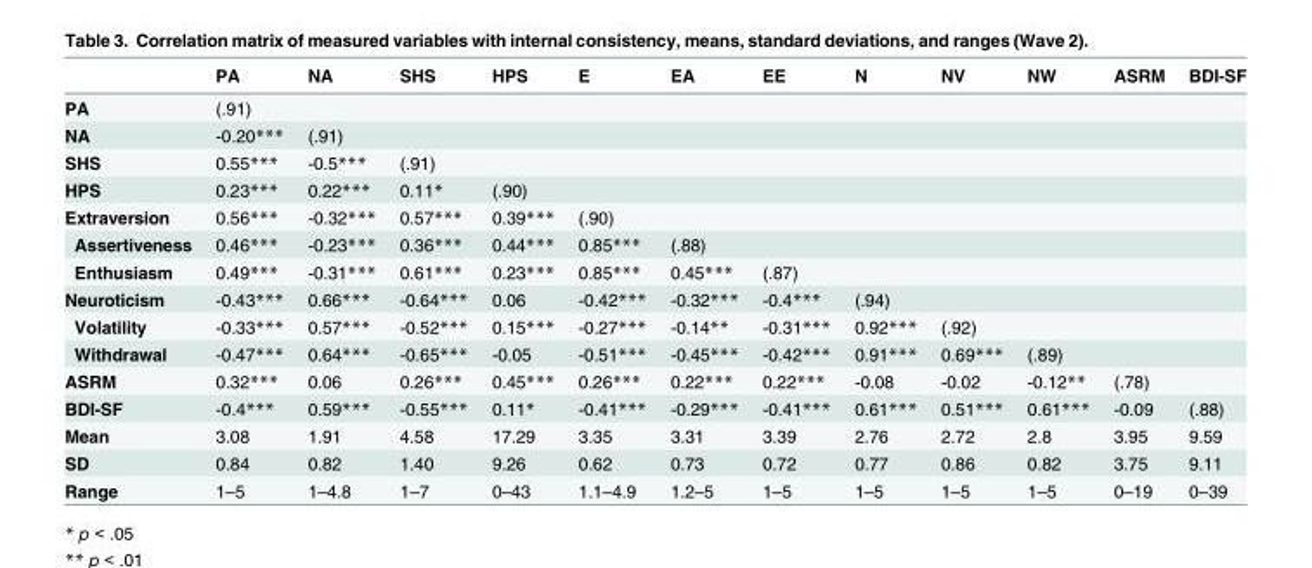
<table><thead><tr><td></td><td>PA</td><td>NA</td><td>SHS</td><td>HPS</td><td>E</td><td>EA</td><td>EE</td><td>N</td><td>NV</td><td>NW</td><td>ASRM</td><td>BDI-SF</td></tr></thead><tbody><tr><td>PA</td><td>(.91)</td><td></td><td></td><td></td><td></td><td></td><td></td><td></td><td></td><td></td><td></td><td></td></tr><tr><td>NA</td><td>-0.20***</td><td>(.91)</td><td></td><td></td><td></td><td></td><td></td><td></td><td></td><td></td><td></td><td></td></tr><tr><td>SHS</td><td>0.55***</td><td>-0.5***</td><td>(.91)</td><td></td><td></td><td></td><td></td><td></td><td></td><td></td><td></td><td></td></tr><tr><td>HPS</td><td>0.23***</td><td>0.22***</td><td>0.11*</td><td>(.90)</td><td></td><td></td><td></td><td></td><td></td><td></td><td></td><td></td></tr><tr><td>Extraversion</td><td>0.56***</td><td>-0.32***</td><td>0.57***</td><td>0.39***</td><td>(.90)</td><td></td><td></td><td></td><td></td><td></td><td></td><td></td></tr><tr><td>Assertiveness</td><td>0.46***</td><td>-0.23***</td><td>0.36***</td><td>0.44***</td><td>0.85***</td><td>(.88)</td><td></td><td></td><td></td><td></td><td></td><td></td></tr><tr><td>Enthusiasm</td><td>0.49***</td><td>-0.31***</td><td>0.61***</td><td>0.23***</td><td>0.85***</td><td>0.45***</td><td>(.87)</td><td></td><td></td><td></td><td></td><td></td></tr><tr><td>Neuroticism</td><td>-0.43***</td><td>0.66***</td><td>-0.64***</td><td>0.06</td><td>-0.42***</td><td>-0.32***</td><td>-0.4***</td><td>(.94)</td><td></td><td></td><td></td><td></td></tr><tr><td>Volatility</td><td>-0.33***</td><td>0.57***</td><td>-0.52***</td><td>0.15***</td><td>-0.27***</td><td>-0.14**</td><td>-0.31***</td><td>0.92***</td><td>(.92)</td><td></td><td></td><td></td></tr><tr><td>Withdrawal</td><td>-0.47***</td><td>0.64***</td><td>-0.65***</td><td>-0.05</td><td>-0.51***</td><td>-0.45***</td><td>-0.42***</td><td>0.91***</td><td>0.69***</td><td>(.89)</td><td></td><td></td></tr><tr><td>ASRM</td><td>0.32***</td><td>0.06</td><td>0.26***</td><td>0.45***</td><td>0.26***</td><td>0.22***</td><td>0.22***</td><td>-0.08</td><td>-0.02</td><td>-0.12**</td><td>(.78)</td><td></td></tr><tr><td>BDI-SF</td><td>-0.4***</td><td>0.59***</td><td>-0.55***</td><td>0.11*</td><td>-0.41***</td><td>-0.29***</td><td>-0.41***</td><td>0.61***</td><td>0.51***</td><td>0.61***</td><td>-0.09</td><td>(.88)</td></tr><tr><td>Mean</td><td>3.08</td><td>1.91</td><td>4.58</td><td>17.29</td><td>3.35</td><td>3.31</td><td>3.39</td><td>2.76</td><td>2.72</td><td>2.8</td><td>3.95</td><td>9.59</td></tr><tr><td>SD</td><td>0.84</td><td>0.82</td><td>1.40</td><td>9.26</td><td>0.62</td><td>0.73</td><td>0.72</td><td>0.77</td><td>0.86</td><td>0.82</td><td>3.75</td><td>9.11</td></tr><tr><td>Range</td><td>1–5</td><td>1–4.8</td><td>1–7</td><td>0–43</td><td>1.1–4.9</td><td>1.2–5</td><td>1–5</td><td>1–5</td><td>1–5</td><td>1–5</td><td>0–19</td><td>0–39</td></tr></tbody></table>